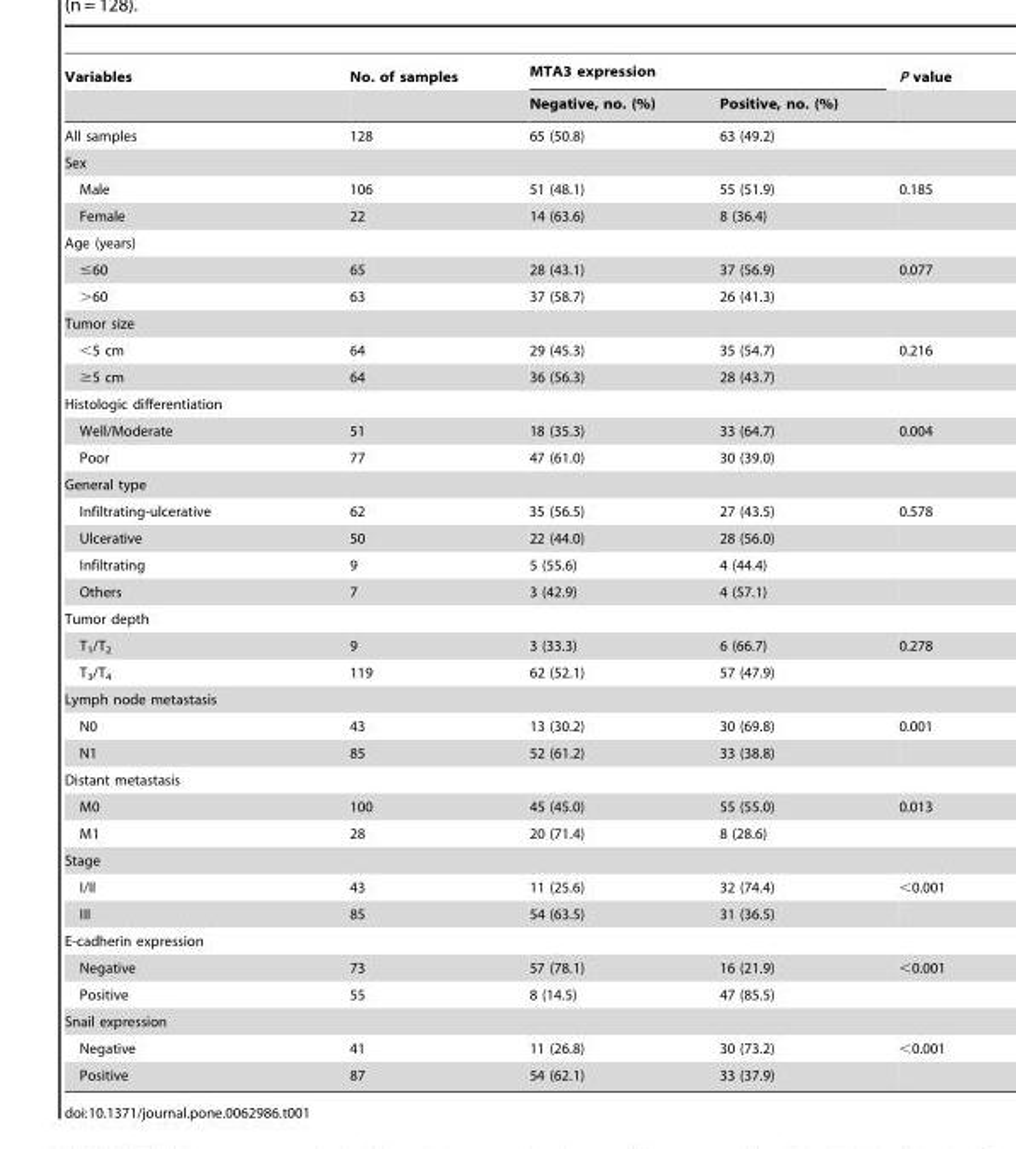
<table><thead><tr><td rowspan="2">Variables</td><td rowspan="2">No. of samples</td><td colspan="2">MTA3 expression</td><td rowspan="2">P value</td></tr><tr><td>Negative, no. (%)</td><td>Positive, no. (%)</td></tr></thead><tbody><tr><td>All samples</td><td>128</td><td>65 (50.8)</td><td>63 (49.2)</td><td></td></tr><tr><td colspan="5">Sex</td></tr><tr><td>Male</td><td>106</td><td>51 (48.1)</td><td>55 (51.9)</td><td>0.185</td></tr><tr><td>Female</td><td>22</td><td>14 (63.6)</td><td>8 (36.4)</td><td></td></tr><tr><td colspan="5">Age (years)</td></tr><tr><td>≤60</td><td>65</td><td>28 (43.1)</td><td>37 (56.9)</td><td>0.077</td></tr><tr><td>&gt;60</td><td>63</td><td>37 (58.7)</td><td>26 (41.3)</td><td></td></tr><tr><td colspan="5">Tumor size</td></tr><tr><td>&lt;5 cm</td><td>64</td><td>29 (45.3)</td><td>35 (54.7)</td><td>0.216</td></tr><tr><td>≥5 cm</td><td>64</td><td>36 (56.3)</td><td>28 (43.7)</td><td></td></tr><tr><td colspan="5">Histologic differentiation</td></tr><tr><td>Well/Moderate</td><td>51</td><td>18 (35.3)</td><td>33 (64.7)</td><td>0.004</td></tr><tr><td>Poor</td><td>77</td><td>47 (61.0)</td><td>30 (39.0)</td><td></td></tr><tr><td colspan="5">General type</td></tr><tr><td>Infiltrating-ulcerative</td><td>62</td><td>35 (56.5)</td><td>27 (43.5)</td><td>0.578</td></tr><tr><td>Ulcerative</td><td>50</td><td>22 (44.0)</td><td>28 (56.0)</td><td></td></tr><tr><td>Infiltrating</td><td>9</td><td>5 (55.6)</td><td>4 (44.4)</td><td></td></tr><tr><td>Others</td><td>7</td><td>3 (42.9)</td><td>4 (57.1)</td><td></td></tr><tr><td colspan="5">Tumor depth</td></tr><tr><td>T<sub>1</sub>/T<sub>2</sub></td><td>9</td><td>3 (33.3)</td><td>6 (66.7)</td><td>0.278</td></tr><tr><td>T<sub>3</sub>/T<sub>4</sub></td><td>119</td><td>62 (52.1)</td><td>57 (47.9)</td><td></td></tr><tr><td colspan="5">Lymph node metastasis</td></tr><tr><td>N0</td><td>43</td><td>13 (30.2)</td><td>30 (69.8)</td><td>0.001</td></tr><tr><td>N1</td><td>85</td><td>52 (61.2)</td><td>33 (38.8)</td><td></td></tr><tr><td colspan="5">Distant metastasis</td></tr><tr><td>M0</td><td>100</td><td>45 (45.0)</td><td>55 (55.0)</td><td>0.013</td></tr><tr><td>M1</td><td>28</td><td>20 (71.4)</td><td>8 (28.6)</td><td></td></tr><tr><td colspan="5">Stage</td></tr><tr><td>I/II</td><td>43</td><td>11 (25.6)</td><td>32 (74.4)</td><td>&lt;0.001</td></tr><tr><td>III</td><td>85</td><td>54 (63.5)</td><td>31 (36.5)</td><td></td></tr><tr><td colspan="5">E-cadherin expression</td></tr><tr><td>Negative</td><td>73</td><td>57 (78.1)</td><td>16 (21.9)</td><td>&lt;0.001</td></tr><tr><td>Positive</td><td>55</td><td>8 (14.5)</td><td>47 (85.5)</td><td></td></tr><tr><td colspan="5">Snail expression</td></tr><tr><td>Negative</td><td>41</td><td>11 (26.8)</td><td>30 (73.2)</td><td>&lt;0.001</td></tr><tr><td>Positive</td><td>87</td><td>54 (62.1)</td><td>33 (37.9)</td><td></td></tr></tbody></table>